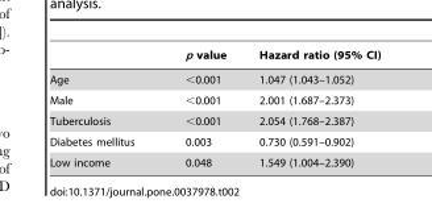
<table><thead><tr><td></td><td>p value</td><td>Hazard ratio (95% CI)</td></tr></thead><tbody><tr><td>Age</td><td>&lt;0.001</td><td>1.047 (1.043–1.052)</td></tr><tr><td>Male</td><td>&lt;0.001</td><td>2.001 (1.687–2.373)</td></tr><tr><td>Tuberculosis</td><td>&lt;0.001</td><td>2.054 (1.768–2.387)</td></tr><tr><td>Diabetes mellitus</td><td>0.003</td><td>0.730 (0.591–0.902)</td></tr><tr><td>Low income</td><td>0.048</td><td>1.549 (1.004–2.390)</td></tr></tbody></table>